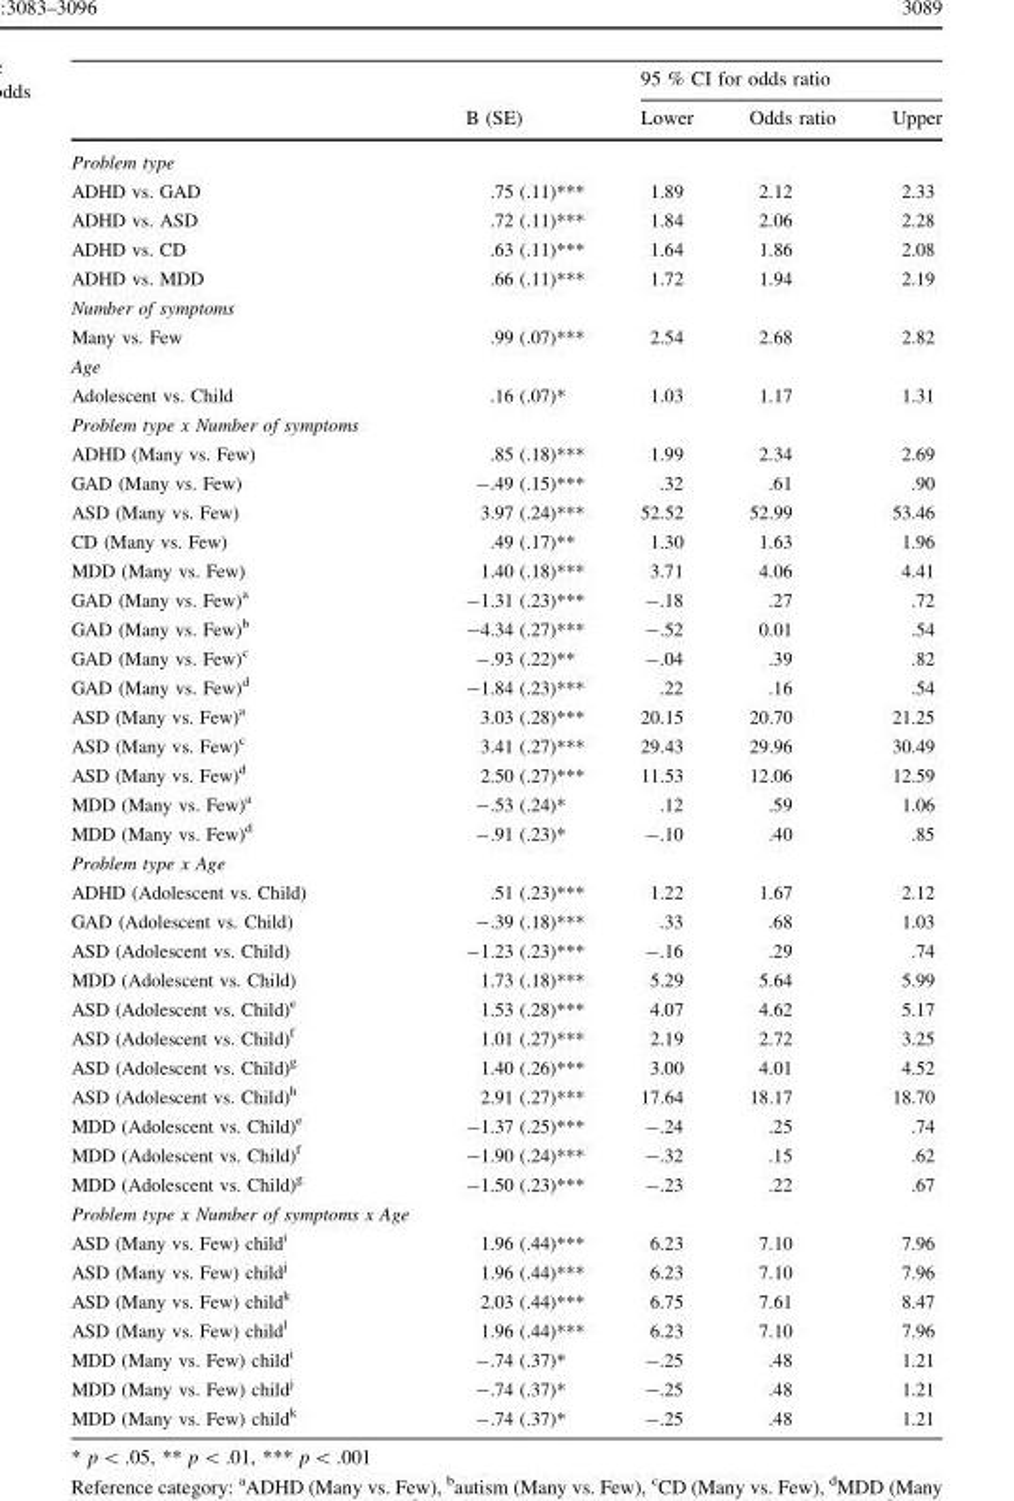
<table><thead><tr><td rowspan="2"></td><td rowspan="2">B (SE)</td><td colspan="3">95 % CI for odds ratio</td></tr><tr><td>Lower</td><td>Odds ratio</td><td>Upper</td></tr></thead><tbody><tr><td colspan="5">Problem type</td></tr><tr><td>ADHD vs. GAD</td><td>.75 (.11)***</td><td>1.89</td><td>2.12</td><td>2.33</td></tr><tr><td>ADHD vs. ASD</td><td>.72 (.11)***</td><td>1.84</td><td>2.06</td><td>2.28</td></tr><tr><td>ADHD vs. CD</td><td>.63 (.11)***</td><td>1.64</td><td>1.86</td><td>2.08</td></tr><tr><td>ADHD vs. MDD</td><td>.66 (.11)***</td><td>1.72</td><td>1.94</td><td>2.19</td></tr><tr><td colspan="5">Number of symptoms</td></tr><tr><td>Many vs. Few</td><td>.99 (.07)***</td><td>2.54</td><td>2.68</td><td>2.82</td></tr><tr><td colspan="5">Age</td></tr><tr><td>Adolescent vs. Child</td><td>.16 (.07)*</td><td>1.03</td><td>1.17</td><td>1.31</td></tr><tr><td colspan="5">Problem type x Number of symptoms</td></tr><tr><td>ADHD (Many vs. Few)</td><td>.85 (.18)***</td><td>1.99</td><td>2.34</td><td>2.69</td></tr><tr><td>GAD (Many vs. Few)</td><td>-.49 (.15)***</td><td>.32</td><td>.61</td><td>.90</td></tr><tr><td>ASD (Many vs. Few)</td><td>3.97 (.24)***</td><td>52.52</td><td>52.99</td><td>53.46</td></tr><tr><td>CD (Many vs. Few)</td><td>.49 (.17)**</td><td>1.30</td><td>1.63</td><td>1.96</td></tr><tr><td>MDD (Many vs. Few)</td><td>1.40 (.18)***</td><td>3.71</td><td>4.06</td><td>4.41</td></tr><tr><td>GAD (Many vs. Few)<sup>a</sup></td><td>-1.31 (.23)***</td><td>-.18</td><td>.27</td><td>.72</td></tr><tr><td>GAD (Many vs. Few)<sup>b</sup></td><td>-4.34 (.27)***</td><td>-.52</td><td>0.01</td><td>.54</td></tr><tr><td>GAD (Many vs. Few)<sup>c</sup></td><td>-.93 (.22)**</td><td>-.04</td><td>.39</td><td>.82</td></tr><tr><td>GAD (Many vs. Few)<sup>d</sup></td><td>-1.84 (.23)***</td><td>.22</td><td>.16</td><td>.54</td></tr><tr><td>ASD (Many vs. Few)<sup>a</sup></td><td>3.03 (.28)***</td><td>20.15</td><td>20.70</td><td>21.25</td></tr><tr><td>ASD (Many vs. Few)<sup>c</sup></td><td>3.41 (.27)***</td><td>29.43</td><td>29.96</td><td>30.49</td></tr><tr><td>ASD (Many vs. Few)<sup>d</sup></td><td>2.50 (.27)***</td><td>11.53</td><td>12.06</td><td>12.59</td></tr><tr><td>MDD (Many vs. Few)<sup>a</sup></td><td>-.53 (.24)*</td><td>.12</td><td>.59</td><td>1.06</td></tr><tr><td>MDD (Many vs. Few)<sup>d</sup></td><td>-.91 (.23)*</td><td>-.10</td><td>.40</td><td>.85</td></tr><tr><td colspan="5">Problem type x Age</td></tr><tr><td>ADHD (Adolescent vs. Child)</td><td>.51 (.23)***</td><td>1.22</td><td>1.67</td><td>2.12</td></tr><tr><td>GAD (Adolescent vs. Child)</td><td>-.39 (.18)***</td><td>.33</td><td>.68</td><td>1.03</td></tr><tr><td>ASD (Adolescent vs. Child)</td><td>-1.23 (.23)***</td><td>-.16</td><td>.29</td><td>.74</td></tr><tr><td>MDD (Adolescent vs. Child)</td><td>1.73 (.18)***</td><td>5.29</td><td>5.64</td><td>5.99</td></tr><tr><td>ASD (Adolescent vs. Child)<sup>e</sup></td><td>1.53 (.28)***</td><td>4.07</td><td>4.62</td><td>5.17</td></tr><tr><td>ASD (Adolescent vs. Child)<sup>f</sup></td><td>1.01 (.27)***</td><td>2.19</td><td>2.72</td><td>3.25</td></tr><tr><td>ASD (Adolescent vs. Child)<sup>g</sup></td><td>1.40 (.26)***</td><td>3.00</td><td>4.01</td><td>4.52</td></tr><tr><td>ASD (Adolescent vs. Child)<sup>h</sup></td><td>2.91 (.27)***</td><td>17.64</td><td>18.17</td><td>18.70</td></tr><tr><td>MDD (Adolescent vs. Child)<sup>e</sup></td><td>-1.37 (.25)***</td><td>-.24</td><td>.25</td><td>.74</td></tr><tr><td>MDD (Adolescent vs. Child)<sup>f</sup></td><td>-1.90 (.24)***</td><td>-.32</td><td>.15</td><td>.62</td></tr><tr><td>MDD (Adolescent vs. Child)<sup>g</sup></td><td>-1.50 (.23)***</td><td>-.23</td><td>.22</td><td>.67</td></tr><tr><td colspan="5">Problem type x Number of symptoms x Age</td></tr><tr><td>ASD (Many vs. Few) child<sup>i</sup></td><td>1.96 (.44)***</td><td>6.23</td><td>7.10</td><td>7.96</td></tr><tr><td>ASD (Many vs. Few) child<sup>j</sup></td><td>1.96 (.44)***</td><td>6.23</td><td>7.10</td><td>7.96</td></tr><tr><td>ASD (Many vs. Few) child<sup>k</sup></td><td>2.03 (.44)***</td><td>6.75</td><td>7.61</td><td>8.47</td></tr><tr><td>ASD (Many vs. Few) child<sup>l</sup></td><td>1.96 (.44)***</td><td>6.23</td><td>7.10</td><td>7.96</td></tr><tr><td>MDD (Many vs. Few) child<sup>i</sup></td><td>-.74 (.37)*</td><td>-.25</td><td>.48</td><td>1.21</td></tr><tr><td>MDD (Many vs. Few) child<sup>j</sup></td><td>-.74 (.37)*</td><td>-.25</td><td>.48</td><td>1.21</td></tr><tr><td>MDD (Many vs. Few) child<sup>k</sup></td><td>-.74 (.37)*</td><td>-.25</td><td>.48</td><td>1.21</td></tr></tbody></table>